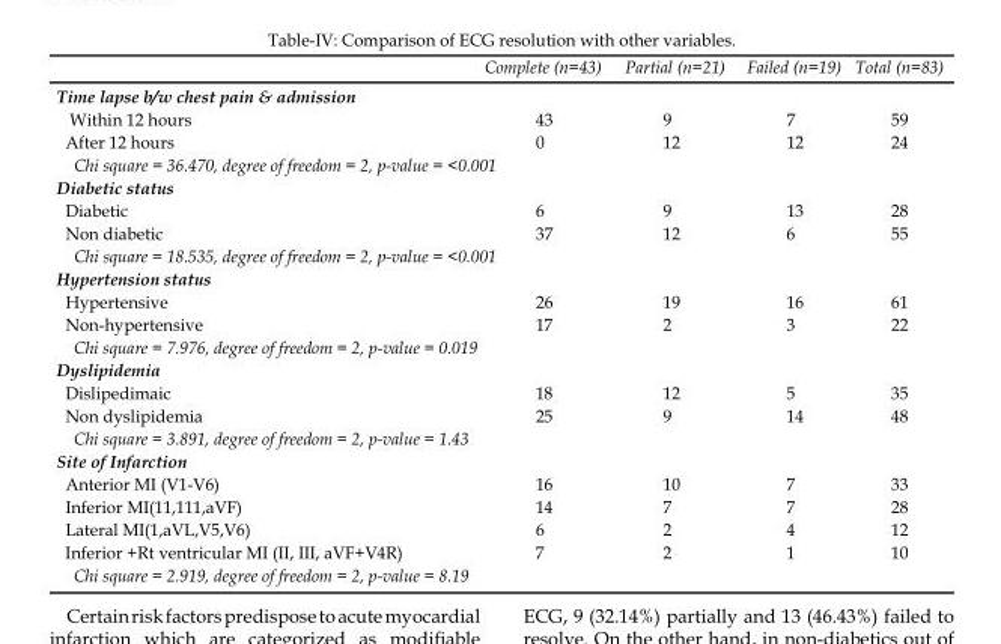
<table><thead><tr><td></td><td>Complete (n=43)</td><td>Partial (n=21)</td><td>Failed (n=19)</td><td>Total (n=83)</td></tr></thead><tbody><tr><td colspan="5">Time lapse b/w chest pain &amp; admission</td></tr><tr><td>Within 12 hours</td><td>43</td><td>9</td><td>7</td><td>59</td></tr><tr><td>After 12 hours</td><td>0</td><td>12</td><td>12</td><td>24</td></tr><tr><td colspan="5">Chi square = 36.470, degree of freedom = 2, p-value = &lt;0.001</td></tr><tr><td colspan="5">Diabetic status</td></tr><tr><td>Diabetic</td><td>6</td><td>9</td><td>13</td><td>28</td></tr><tr><td>Non diabetic</td><td>37</td><td>12</td><td>6</td><td>55</td></tr><tr><td colspan="5">Chi square = 18.535, degree of freedom = 2, p-value = &lt;0.001</td></tr><tr><td colspan="5">Hypertension status</td></tr><tr><td>Hypertensive</td><td>26</td><td>19</td><td>16</td><td>61</td></tr><tr><td>Non-hypertensive</td><td>17</td><td>2</td><td>3</td><td>22</td></tr><tr><td colspan="5">Chi square = 7.976, degree of freedom = 2, p-value = 0.019</td></tr><tr><td colspan="5">Dyslipidemia</td></tr><tr><td>Dislipedimaic</td><td>18</td><td>12</td><td>5</td><td>35</td></tr><tr><td>Non dyslipidemia</td><td>25</td><td>9</td><td>14</td><td>48</td></tr><tr><td colspan="5">Chi square = 3.891, degree of freedom = 2, p-value = 1.43</td></tr><tr><td colspan="5">Site of Infarction</td></tr><tr><td>Anterior MI (V1-V6)</td><td>16</td><td>10</td><td>7</td><td>33</td></tr><tr><td>Inferior MI(11,111,aVF)</td><td>14</td><td>7</td><td>7</td><td>28</td></tr><tr><td>Lateral MI(1,aVL,V5,V6)</td><td>6</td><td>2</td><td>4</td><td>12</td></tr><tr><td>Inferior +Rt ventricular MI (II, III, aVF+V4R)</td><td>7</td><td>2</td><td>1</td><td>10</td></tr><tr><td colspan="5">Chi square = 2.919, degree of freedom = 2, p-value = 8.19</td></tr></tbody></table>